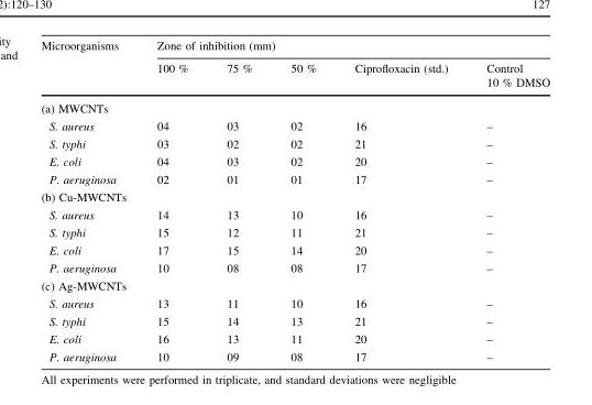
<table><thead><tr><td rowspan="2">Microorganisms</td><td colspan="5">Zone of inhibition (mm)</td></tr><tr><td>100 %</td><td>75 %</td><td>50 %</td><td>Ciprofloxacin (std.)</td><td>Control 10 % DMSO</td></tr></thead><tbody><tr><td colspan="6">(a) MWCNTs</td></tr><tr><td>S. aureus</td><td>04</td><td>03</td><td>02</td><td>16</td><td>–</td></tr><tr><td>S. typhi</td><td>03</td><td>02</td><td>02</td><td>21</td><td>–</td></tr><tr><td>E. coli</td><td>04</td><td>03</td><td>02</td><td>20</td><td>–</td></tr><tr><td>P. aeruginosa</td><td>02</td><td>01</td><td>01</td><td>17</td><td>–</td></tr><tr><td colspan="6">(b) Cu-MWCNTs</td></tr><tr><td>S. aureus</td><td>14</td><td>13</td><td>10</td><td>16</td><td>–</td></tr><tr><td>S. typhi</td><td>15</td><td>12</td><td>11</td><td>21</td><td>–</td></tr><tr><td>E. coli</td><td>17</td><td>15</td><td>14</td><td>20</td><td>–</td></tr><tr><td>P. aeruginosa</td><td>10</td><td>08</td><td>08</td><td>17</td><td>–</td></tr><tr><td colspan="6">(c) Ag-MWCNTs</td></tr><tr><td>S. aureus</td><td>13</td><td>11</td><td>10</td><td>16</td><td>–</td></tr><tr><td>S. typhi</td><td>15</td><td>14</td><td>13</td><td>21</td><td>–</td></tr><tr><td>E. coli</td><td>16</td><td>13</td><td>11</td><td>20</td><td>–</td></tr><tr><td>P. aeruginosa</td><td>10</td><td>09</td><td>08</td><td>17</td><td>–</td></tr></tbody></table>